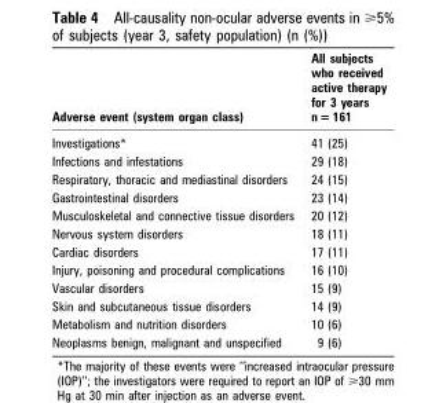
<table><thead><tr><td>Adverse event (system organ class)</td><td>All subjects who received active therapy for 3 years n = 161</td></tr></thead><tbody><tr><td>Investigations*</td><td>41 (25)</td></tr><tr><td>Infections and infestations</td><td>29 (18)</td></tr><tr><td>Respiratory, thoracic and mediastinal disorders</td><td>24 (15)</td></tr><tr><td>Gastrointestinal disorders</td><td>23 (14)</td></tr><tr><td>Musculoskeletal and connective tissue disorders</td><td>20 (12)</td></tr><tr><td>Nervous system disorders</td><td>18 (11)</td></tr><tr><td>Cardiac disorders</td><td>17 (11)</td></tr><tr><td>Injury, poisoning and procedural complications</td><td>16 (10)</td></tr><tr><td>Vascular disorders</td><td>15 (9)</td></tr><tr><td>Skin and subcutaneous tissue disorders</td><td>14 (9)</td></tr><tr><td>Metabolism and nutrition disorders</td><td>10 (6)</td></tr><tr><td>Neoplasms benign, malignant and unspecified</td><td>9 (6)</td></tr></tbody></table>